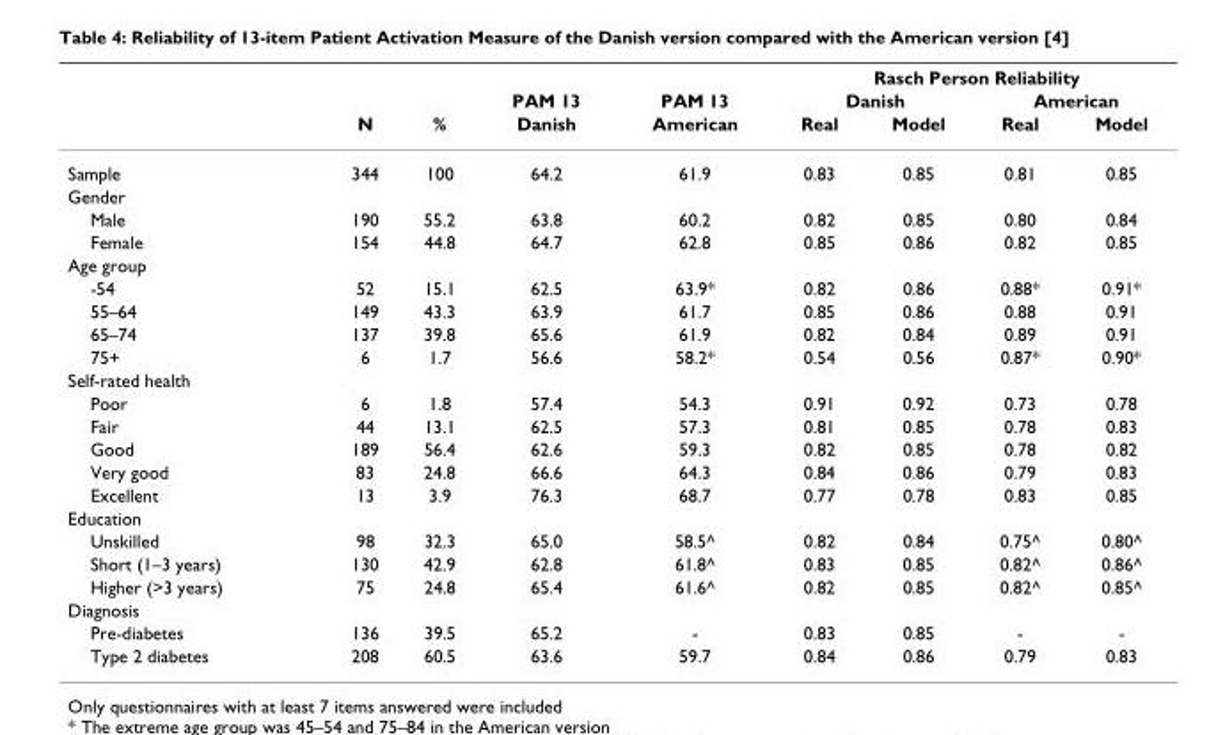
<table><thead><tr><td rowspan="3"></td><td rowspan="3">N</td><td rowspan="3">%</td><td rowspan="3">PAM 13 Danish</td><td rowspan="3">PAM 13 American</td><td colspan="4">Rasch Person Reliability</td></tr><tr><td colspan="2">Danish</td><td colspan="2">American</td></tr><tr><td>Real</td><td>Model</td><td>Real</td><td>Model</td></tr></thead><tbody><tr><td>Sample</td><td>344</td><td>100</td><td>64.2</td><td>61.9</td><td>0.83</td><td>0.85</td><td>0.81</td><td>0.85</td></tr><tr><td colspan="9">Gender</td></tr><tr><td>Male</td><td>190</td><td>55.2</td><td>63.8</td><td>60.2</td><td>0.82</td><td>0.85</td><td>0.80</td><td>0.84</td></tr><tr><td>Female</td><td>154</td><td>44.8</td><td>64.7</td><td>62.8</td><td>0.85</td><td>0.86</td><td>0.82</td><td>0.85</td></tr><tr><td colspan="9">Age group</td></tr><tr><td>-54</td><td>52</td><td>15.1</td><td>62.5</td><td>63.9*</td><td>0.82</td><td>0.86</td><td>0.88*</td><td>0.91*</td></tr><tr><td>55–64</td><td>149</td><td>43.3</td><td>63.9</td><td>61.7</td><td>0.85</td><td>0.86</td><td>0.88</td><td>0.91</td></tr><tr><td>65–74</td><td>137</td><td>39.8</td><td>65.6</td><td>61.9</td><td>0.82</td><td>0.84</td><td>0.89</td><td>0.91</td></tr><tr><td>75+</td><td>6</td><td>1.7</td><td>56.6</td><td>58.2*</td><td>0.54</td><td>0.56</td><td>0.87*</td><td>0.90*</td></tr><tr><td colspan="9">Self-rated health</td></tr><tr><td>Poor</td><td>6</td><td>1.8</td><td>57.4</td><td>54.3</td><td>0.91</td><td>0.92</td><td>0.73</td><td>0.78</td></tr><tr><td>Fair</td><td>44</td><td>13.1</td><td>62.5</td><td>57.3</td><td>0.81</td><td>0.85</td><td>0.78</td><td>0.83</td></tr><tr><td>Good</td><td>189</td><td>56.4</td><td>62.6</td><td>59.3</td><td>0.82</td><td>0.85</td><td>0.78</td><td>0.82</td></tr><tr><td>Very good</td><td>83</td><td>24.8</td><td>66.6</td><td>64.3</td><td>0.84</td><td>0.86</td><td>0.79</td><td>0.83</td></tr><tr><td>Excellent</td><td>13</td><td>3.9</td><td>76.3</td><td>68.7</td><td>0.77</td><td>0.78</td><td>0.83</td><td>0.85</td></tr><tr><td colspan="9">Education</td></tr><tr><td>Unskilled</td><td>98</td><td>32.3</td><td>65.0</td><td>58.5^</td><td>0.82</td><td>0.84</td><td>0.75^</td><td>0.80^</td></tr><tr><td>Short (1–3 years)</td><td>130</td><td>42.9</td><td>62.8</td><td>61.8^</td><td>0.83</td><td>0.85</td><td>0.82^</td><td>0.86^</td></tr><tr><td>Higher (&gt;3 years)</td><td>75</td><td>24.8</td><td>65.4</td><td>61.6^</td><td>0.82</td><td>0.85</td><td>0.82^</td><td>0.85^</td></tr><tr><td colspan="9">Diagnosis</td></tr><tr><td>Pre-diabetes</td><td>136</td><td>39.5</td><td>65.2</td><td>-</td><td>0.83</td><td>0.85</td><td>-</td><td>-</td></tr><tr><td>Type 2 diabetes</td><td>208</td><td>60.5</td><td>63.6</td><td>59.7</td><td>0.84</td><td>0.86</td><td>0.79</td><td>0.83</td></tr></tbody></table>